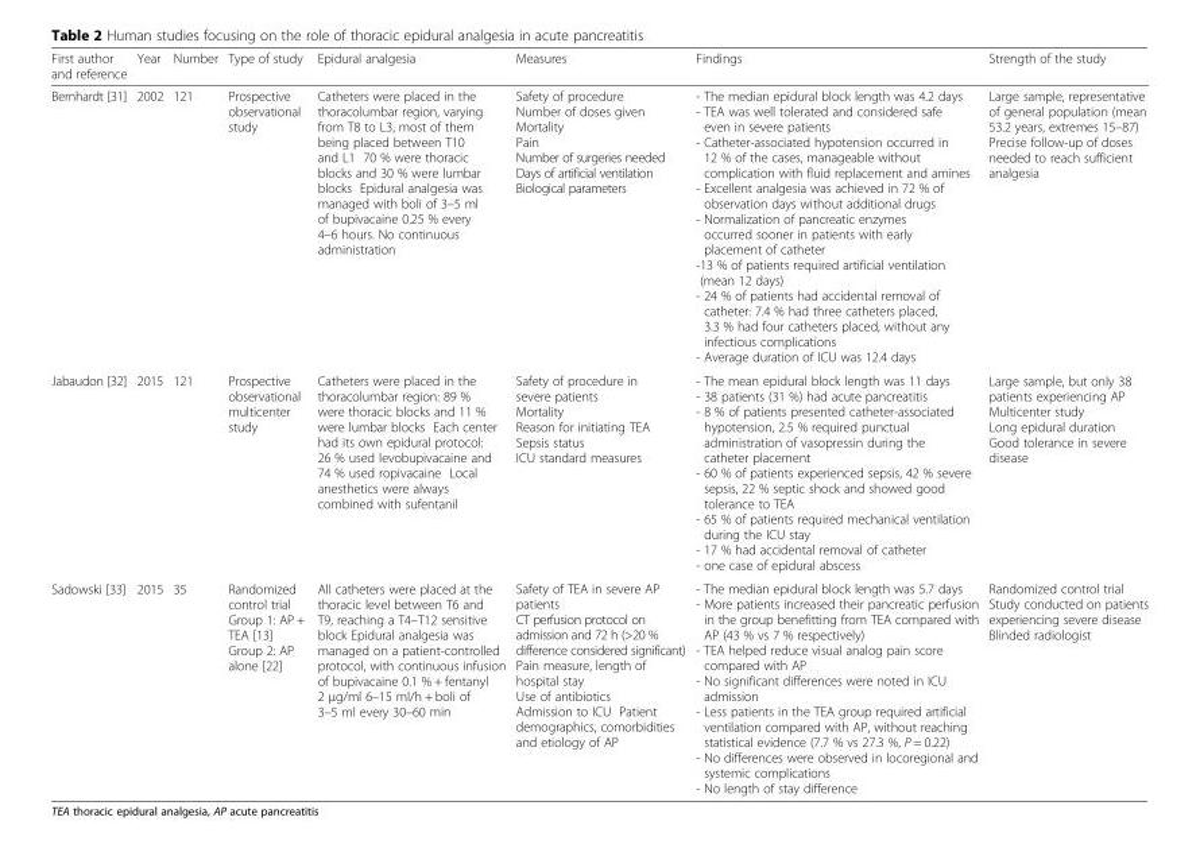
<table><thead><tr><td>First author and reference</td><td>Year</td><td>Number</td><td>Type of study</td><td>Epidural analgesia</td><td>Measures</td><td>Findings</td><td>Strength of the study</td></tr></thead><tbody><tr><td>Bernhardt [31]</td><td>2002</td><td>121</td><td>Prospective observational study</td><td>Catheters were placed in the thoracolumbar region, varying from T8 to L3, most of them being placed between T10 and L1 70 % were thoracic blocks and 30 % were lumbar blocks Epidural analgesia was managed with boli of 3–5 ml of bupivacaine 0.25 % every 4–6 hours. No continuous administration</td><td>Safety of procedure Number of doses given Mortality Pain Number of surgeries needed Days of artificial ventilation Biological parameters</td><td>- The median epidural block length was 4.2 days - TEA was well tolerated and considered safe even in severe patients - Catheter-associated hypotension occurred in 12 % of the cases, manageable without complication with fluid replacement and amines - Excellent analgesia was achieved in 72 % of observation days without additional drugs - Normalization of pancreatic enzymes occurred sooner in patients with early placement of catheter -13 % of patients required artificial ventilation (mean 12 days) - 24 % of patients had accidental removal of catheter: 7.4 % had three catheters placed, 3.3 % had four catheters placed, without any infectious complications - Average duration of ICU was 12.4 days</td><td>Large sample, representative of general population (mean 53.2 years, extremes 15–87) Precise follow-up of doses needed to reach sufficient analgesia</td></tr><tr><td>Jabaudon [32]</td><td>2015</td><td>121</td><td>Prospective observational multicenter study</td><td>Catheters were placed in the thoracolumbar region: 89 % were thoracic blocks and 11 % were lumbar blocks Each center had its own epidural protocol: 26 % used levobupivacaine and 74 % used ropivacaine Local anesthetics were always combined with sufentanil</td><td>Safety of procedure in severe patients Mortality Reason for initiating TEA Sepsis status ICU standard measures</td><td>- The mean epidural block length was 11 days - 38 patients (31 %) had acute pancreatitis - 8 % of patients presented catheter-associated hypotension, 2.5 % required punctual administration of vasopressin during the catheter placement - 60 % of patients experienced sepsis, 42 % severe sepsis, 22 % septic shock and showed good tolerance to TEA - 65 % of patients required mechanical ventilation during the ICU stay - 17 % had accidental removal of catheter - one case of epidural abscess</td><td>Large sample, but only 38 patients experiencing AP Multicenter study Long epidural duration Good tolerance in severe disease</td></tr><tr><td>Sadowski [33]</td><td>2015</td><td>35</td><td>Randomized control trial Group 1: AP + TEA [13] Group 2: AP alone [22]</td><td>All catheters were placed at the thoracic level between T6 and T9, reaching a T4–T12 sensitive block Epidural analgesia was managed on a patient-controlled protocol, with continuous infusion of bupivacaine 0.1 % + fentanyl 2 μg/ml 6–15 ml/h + boli of 3–5 ml every 30–60 min</td><td>Safety of TEA in severe AP patients CT perfusion protocol on admission and 72 h (&gt;20 % difference considered significant) Pain measure, length of hospital stay Use of antibiotics Admission to ICU Patient demographics, comorbidities and etiology of AP</td><td>- The median epidural block length was 5.7 days - More patients increased their pancreatic perfusion in the group benefitting from TEA compared with AP (43 % vs 7 % respectively) - TEA helped reduce visual analog pain score compared with AP - No significant differences were noted in ICU admission - Less patients in the TEA group required artificial ventilation compared with AP, without reaching statistical evidence (7.7 % vs 27.3 %, P = 0.22) - No differences were observed in locoregional and systemic complications - No length of stay difference</td><td>Randomized control trial Study conducted on patients experiencing severe disease Blinded radiologist</td></tr></tbody></table>